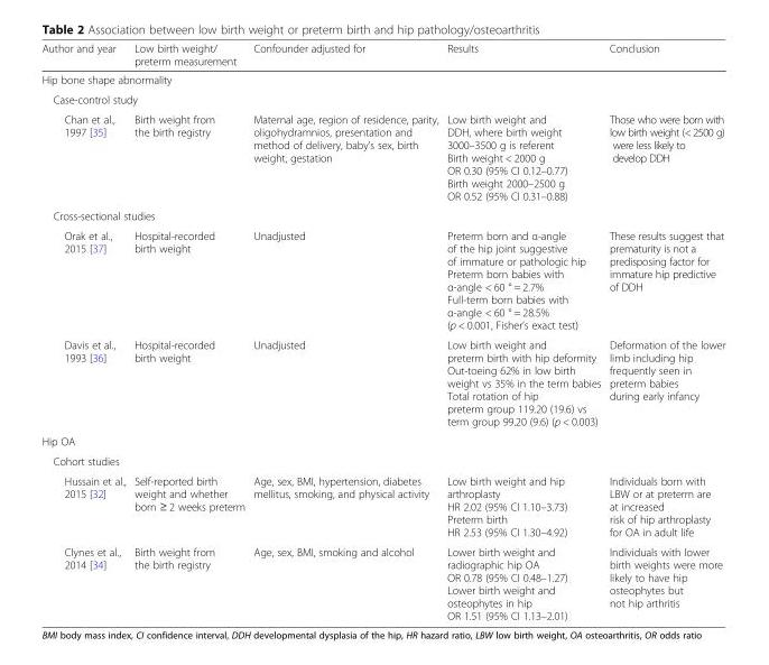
<table><thead><tr><td>Author and year</td><td>Low birth weight/ preterm measurement</td><td>Confounder adjusted for</td><td>Results</td><td>Conclusion</td></tr></thead><tbody><tr><td colspan="5">Hip bone shape abnormality</td></tr><tr><td colspan="5">Case-control study</td></tr><tr><td>Chan et al., 1997 [35]</td><td>Birth weight from the birth registry</td><td>Maternal age, region of residence, parity, oligohydramnios, presentation and method of delivery, baby’s sex, birth weight, gestation</td><td>Low birth weight and DDH, where birth weight 3000–3500 g is referent Birth weight &lt; 2000 g OR 0.30 (95% CI 0.12–0.77) Birth weight 2000–2500 g OR 0.52 (95% CI 0.31–0.88)</td><td>Those who were born with low birth weight (&lt; 2500 g) were less likely to develop DDH</td></tr><tr><td colspan="5">Cross-sectional studies</td></tr><tr><td>Orak et al., 2015 [37]</td><td>Hospital-recorded birth weight</td><td>Unadjusted</td><td>Preterm born and α-angle of the hip joint suggestive of immature or pathologic hip Preterm born babies with α-angle &lt; 60 ° = 2.7% Full-term born babies with α-angle &lt; 60 ° = 28.5% (p &lt; 0.001, Fisher’s exact test)</td><td>These results suggest that prematurity is not a predisposing factor for immature hip predictive of DDH</td></tr><tr><td>Davis et al., 1993 [36]</td><td>Hospital-recorded birth weight</td><td>Unadjusted</td><td>Low birth weight and preterm birth with hip deformity Out-toeing 62% in low birth weight vs 35% in the term babies Total rotation of hip preterm group 119.20 (19.6) vs term group 99.20 (9.6) (p &lt; 0.003)</td><td>Deformation of the lower limb including hip frequently seen in preterm babies during early infancy</td></tr><tr><td colspan="5">Hip OA</td></tr><tr><td colspan="5">Cohort studies</td></tr><tr><td>Hussain et al., 2015 [32]</td><td>Self-reported birth weight and whether born ≥ 2 weeks preterm</td><td>Age, sex, BMI, hypertension, diabetes mellitus, smoking, and physical activity</td><td>Low birth weight and hip arthroplasty HR 2.02 (95% CI 1.10–3.73) Preterm birth HR 2.53 (95% CI 1.30–4.92)</td><td>Individuals born with LBW or at preterm are at increased risk of hip arthroplasty for OA in adult life</td></tr><tr><td>Clynes et al., 2014 [34]</td><td>Birth weight from the birth registry</td><td>Age, sex, BMI, smoking and alcohol</td><td>Lower birth weight and radiographic hip OA OR 0.78 (95% CI 0.48–1.27) Lower birth weight and osteophytes in hip OR 1.51 (95% CI 1.13–2.01)</td><td>Individuals with lower birth weights were more likely to have hip osteophytes but not hip arthritis</td></tr></tbody></table>